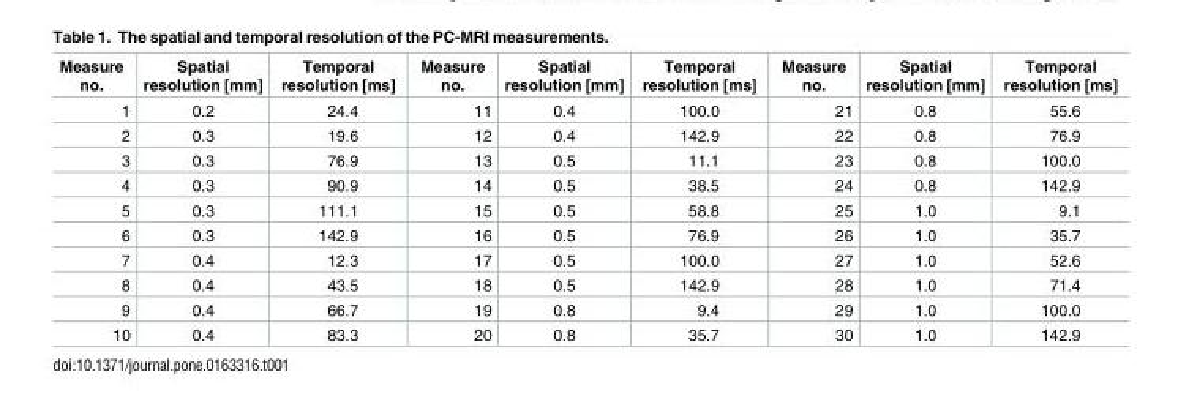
<table><thead><tr><td>Measure no.</td><td>Spatial resolution [mm]</td><td>Temporal resolution [ms]</td><td>Measure no.</td><td>Spatial resolution [mm]</td><td>Temporal resolution [ms]</td><td>Measure no.</td><td>Spatial resolution [mm]</td><td>Temporal resolution [ms]</td></tr></thead><tbody><tr><td>1</td><td>0.2</td><td>24.4</td><td>11</td><td>0.4</td><td>100.0</td><td>21</td><td>0.8</td><td>55.6</td></tr><tr><td>2</td><td>0.3</td><td>19.6</td><td>12</td><td>0.4</td><td>142.9</td><td>22</td><td>0.8</td><td>76.9</td></tr><tr><td>3</td><td>0.3</td><td>76.9</td><td>13</td><td>0.5</td><td>11.1</td><td>23</td><td>0.8</td><td>100.0</td></tr><tr><td>4</td><td>0.3</td><td>90.9</td><td>14</td><td>0.5</td><td>38.5</td><td>24</td><td>0.8</td><td>142.9</td></tr><tr><td>5</td><td>0.3</td><td>111.1</td><td>15</td><td>0.5</td><td>58.8</td><td>25</td><td>1.0</td><td>9.1</td></tr><tr><td>6</td><td>0.3</td><td>142.9</td><td>16</td><td>0.5</td><td>76.9</td><td>26</td><td>1.0</td><td>35.7</td></tr><tr><td>7</td><td>0.4</td><td>12.3</td><td>17</td><td>0.5</td><td>100.0</td><td>27</td><td>1.0</td><td>52.6</td></tr><tr><td>8</td><td>0.4</td><td>43.5</td><td>18</td><td>0.5</td><td>142.9</td><td>28</td><td>1.0</td><td>71.4</td></tr><tr><td>9</td><td>0.4</td><td>66.7</td><td>19</td><td>0.8</td><td>9.4</td><td>29</td><td>1.0</td><td>100.0</td></tr><tr><td>10</td><td>0.4</td><td>83.3</td><td>20</td><td>0.8</td><td>35.7</td><td>30</td><td>1.0</td><td>142.9</td></tr></tbody></table>